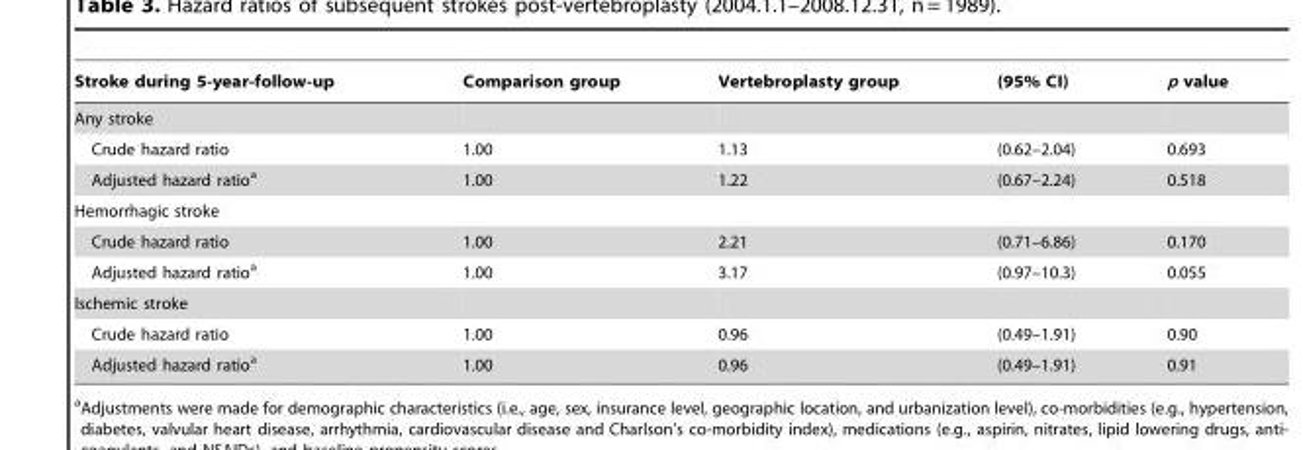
<table><thead><tr><td>Stroke during 5-year-follow-up</td><td>Comparison group</td><td>Vertebroplasty group</td><td>(95% CI)</td><td>p value</td></tr></thead><tbody><tr><td colspan="5">Any stroke</td></tr><tr><td>Crude hazard ratio</td><td>1.00</td><td>1.13</td><td>(0.62–2.04)</td><td>0.693</td></tr><tr><td>Adjusted hazard ratio<sup>a</sup></td><td>1.00</td><td>1.22</td><td>(0.67–2.24)</td><td>0.518</td></tr><tr><td colspan="5">Hemorrhagic stroke</td></tr><tr><td>Crude hazard ratio</td><td>1.00</td><td>2.21</td><td>(0.71–6.86)</td><td>0.170</td></tr><tr><td>Adjusted hazard ratio<sup>a</sup></td><td>1.00</td><td>3.17</td><td>(0.97–10.3)</td><td>0.055</td></tr><tr><td colspan="5">Ischemic stroke</td></tr><tr><td>Crude hazard ratio</td><td>1.00</td><td>0.96</td><td>(0.49–1.91)</td><td>0.90</td></tr><tr><td>Adjusted hazard ratio<sup>a</sup></td><td>1.00</td><td>0.96</td><td>(0.49–1.91)</td><td>0.91</td></tr></tbody></table>